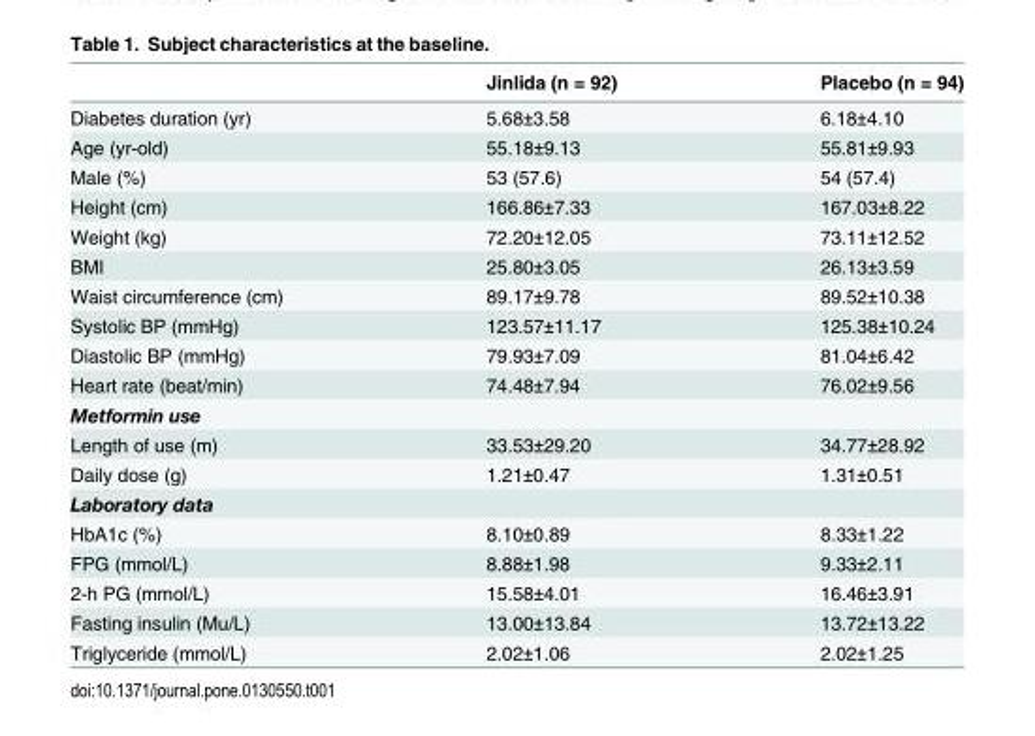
<table><thead><tr><td></td><td>Jinlida (n = 92)</td><td>Placebo (n = 94)</td></tr></thead><tbody><tr><td>Diabetes duration (yr)</td><td>5.68±3.58</td><td>6.18±4.10</td></tr><tr><td>Age (yr-old)</td><td>55.18±9.13</td><td>55.81±9.93</td></tr><tr><td>Male (%)</td><td>53 (57.6)</td><td>54 (57.4)</td></tr><tr><td>Height (cm)</td><td>166.86±7.33</td><td>167.03±8.22</td></tr><tr><td>Weight (kg)</td><td>72.20±12.05</td><td>73.11±12.52</td></tr><tr><td>BMI</td><td>25.80±3.05</td><td>26.13±3.59</td></tr><tr><td>Waist circumference (cm)</td><td>89.17±9.78</td><td>89.52±10.38</td></tr><tr><td>Systolic BP (mmHg)</td><td>123.57±11.17</td><td>125.38±10.24</td></tr><tr><td>Diastolic BP (mmHg)</td><td>79.93±7.09</td><td>81.04±6.42</td></tr><tr><td>Heart rate (beat/min)</td><td>74.48±7.94</td><td>76.02±9.56</td></tr><tr><td colspan="3">Metformin use</td></tr><tr><td>Length of use (m)</td><td>33.53±29.20</td><td>34.77±28.92</td></tr><tr><td>Daily dose (g)</td><td>1.21±0.47</td><td>1.31±0.51</td></tr><tr><td colspan="3">Laboratory data</td></tr><tr><td>HbA1c (%)</td><td>8.10±0.89</td><td>8.33±1.22</td></tr><tr><td>FPG (mmol/L)</td><td>8.88±1.98</td><td>9.33±2.11</td></tr><tr><td>2-h PG (mmol/L)</td><td>15.58±4.01</td><td>16.46±3.91</td></tr><tr><td>Fasting insulin (Mu/L)</td><td>13.00±13.84</td><td>13.72±13.22</td></tr><tr><td>Triglyceride (mmol/L)</td><td>2.02±1.06</td><td>2.02±1.25</td></tr></tbody></table>